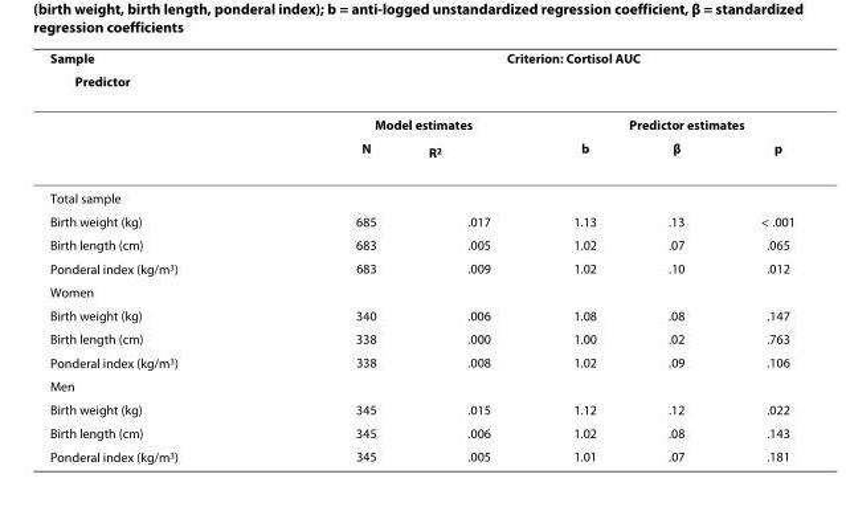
<table><thead><tr><td rowspan="2">Sample Predictor</td><td colspan="5">Criterion: Cortisol AUC</td></tr><tr><td></td><td></td><td></td><td></td><td></td></tr></thead><tbody><tr><td></td><td colspan="2">Model estimates</td><td colspan="3">Predictor estimates</td></tr><tr><td></td><td>N</td><td>R<sup>2</sup></td><td>b</td><td>β</td><td>p</td></tr><tr><td colspan="6">Total sample</td></tr><tr><td>Birth weight (kg)</td><td>685</td><td>.017</td><td>1.13</td><td>.13</td><td>&lt; .001</td></tr><tr><td>Birth length (cm)</td><td>683</td><td>.005</td><td>1.02</td><td>.07</td><td>.065</td></tr><tr><td>Ponderal index (kg/m<sup>3</sup>)</td><td>683</td><td>.009</td><td>1.02</td><td>.10</td><td>.012</td></tr><tr><td colspan="6">Women</td></tr><tr><td>Birth weight (kg)</td><td>340</td><td>.006</td><td>1.08</td><td>.08</td><td>.147</td></tr><tr><td>Birth length (cm)</td><td>338</td><td>.000</td><td>1.00</td><td>.02</td><td>.763</td></tr><tr><td>Ponderal index (kg/m<sup>3</sup>)</td><td>338</td><td>.008</td><td>1.02</td><td>.09</td><td>.106</td></tr><tr><td colspan="6">Men</td></tr><tr><td>Birth weight (kg)</td><td>345</td><td>.015</td><td>1.12</td><td>.12</td><td>.022</td></tr><tr><td>Birth length (cm)</td><td>345</td><td>.006</td><td>1.02</td><td>.08</td><td>.143</td></tr><tr><td>Ponderal index (kg/m<sup>3</sup>)</td><td>345</td><td>.005</td><td>1.01</td><td>.07</td><td>.181</td></tr></tbody></table>